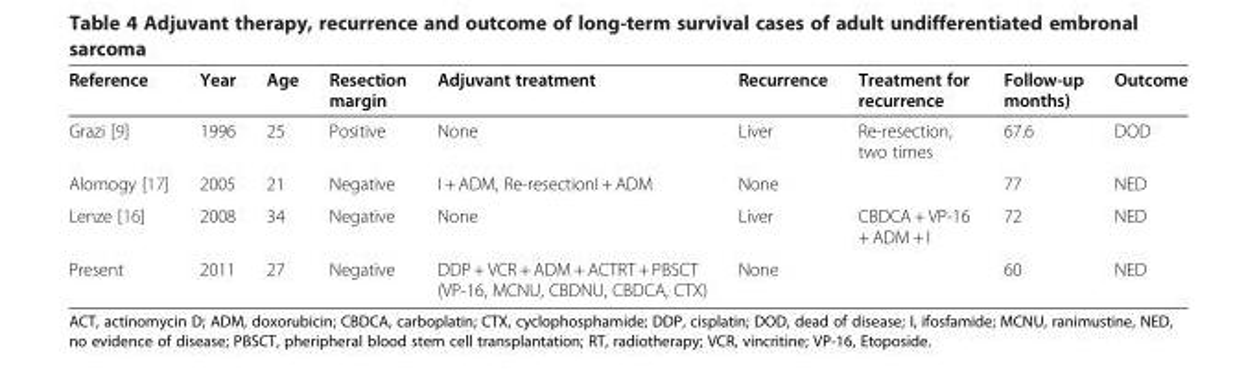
<table><thead><tr><td>Reference</td><td>Year</td><td>Age</td><td>Resection margin</td><td>Adjuvant treatment</td><td>Recurrence</td><td>Treatment for recurrence</td><td>Follow-up months)</td><td>Outcome</td></tr></thead><tbody><tr><td>Grazi [9]</td><td>1996</td><td>25</td><td>Positive</td><td>None</td><td>Liver</td><td>Re-resection, two times</td><td>67.6</td><td>DOD</td></tr><tr><td>Alomogy [17]</td><td>2005</td><td>21</td><td>Negative</td><td>I + ADM, Re-resectionI + ADM</td><td>None</td><td></td><td>77</td><td>NED</td></tr><tr><td>Lenze [16]</td><td>2008</td><td>34</td><td>Negative</td><td>None</td><td>Liver</td><td>CBDCA + VP-16 + ADM + I</td><td>72</td><td>NED</td></tr><tr><td>Present</td><td>2011</td><td>27</td><td>Negative</td><td>DDP + VCR + ADM + ACTRT + PBSCT (VP-16, MCNU, CBDNU, CBDCA, CTX)</td><td>None</td><td></td><td>60</td><td>NED</td></tr></tbody></table>